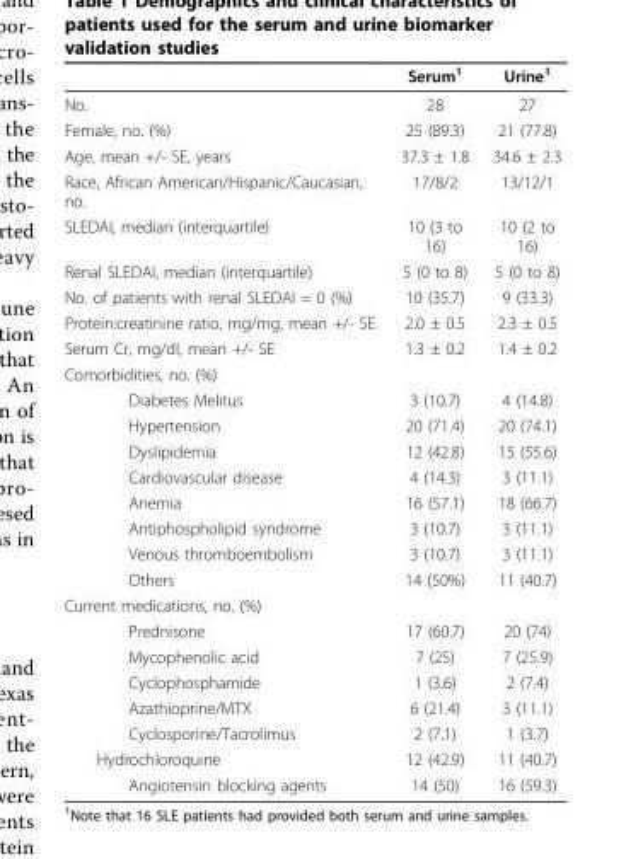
<table><thead><tr><td></td><td>Serum<sup>1</sup></td><td>Urine<sup>1</sup></td></tr></thead><tbody><tr><td>No.</td><td>28</td><td>27</td></tr><tr><td>Female, no. (%)</td><td>25 (89.3)</td><td>21 (77.8)</td></tr><tr><td>Age, mean +/- SE, years</td><td>37.3 ± 1.8</td><td>34.6 ± 2.3</td></tr><tr><td>Race, African American/Hispanic/Caucasian, no.</td><td>17/8/2</td><td>13/12/1</td></tr><tr><td>SLEDAI, median (interquartile)</td><td>10 (3 to 16)</td><td>10 (2 to 16)</td></tr><tr><td>Renal SLEDAI, median (interquartile)</td><td>5 (0 to 8)</td><td>5 (0 to 8)</td></tr><tr><td>No. of patients with renal SLEDAI = 0 (%)</td><td>10 (35.7)</td><td>9 (33.3)</td></tr><tr><td>Protein:creatinine ratio, mg/mg, mean +/- SE</td><td>2.0 ± 0.5</td><td>2.3 ± 0.5</td></tr><tr><td>Serum Cr, mg/dl, mean +/- SE</td><td>1.3 ± 0.2</td><td>1.4 ± 0.2</td></tr><tr><td colspan="3">Comorbidities, no. (%)</td></tr><tr><td>Diabetes Melitus</td><td>3 (10.7)</td><td>4 (14.8)</td></tr><tr><td>Hypertension</td><td>20 (71.4)</td><td>20 (74.1)</td></tr><tr><td>Dyslipidemia</td><td>12 (42.8)</td><td>15 (55.6)</td></tr><tr><td>Cardiovascular disease</td><td>4 (14.3)</td><td>3 (11.1)</td></tr><tr><td>Anemia</td><td>16 (57.1)</td><td>18 (66.7)</td></tr><tr><td>Antiphospholipid syndrome</td><td>3 (10.7)</td><td>3 (11.1)</td></tr><tr><td>Venous thromboembolism</td><td>3 (10.7)</td><td>3 (11.1)</td></tr><tr><td>Others</td><td>14 (50%)</td><td>11 (40.7)</td></tr><tr><td colspan="3">Current medications, no. (%)</td></tr><tr><td>Prednisone</td><td>17 (60.7)</td><td>20 (74)</td></tr><tr><td>Mycophenolic acid</td><td>7 (25)</td><td>7 (25.9)</td></tr><tr><td>Cyclophosphamide</td><td>1 (3.6)</td><td>2 (7.4)</td></tr><tr><td>Azathioprine/MTX</td><td>6 (21.4)</td><td>3 (11.1)</td></tr><tr><td>Cyclosporine/Tacrolimus</td><td>2 (7.1)</td><td>1 (3.7)</td></tr><tr><td>Hydrochloroquine</td><td>12 (42.9)</td><td>11 (40.7)</td></tr><tr><td>Angiotensin blocking agents</td><td>14 (50)</td><td>16 (59.3)</td></tr></tbody></table>